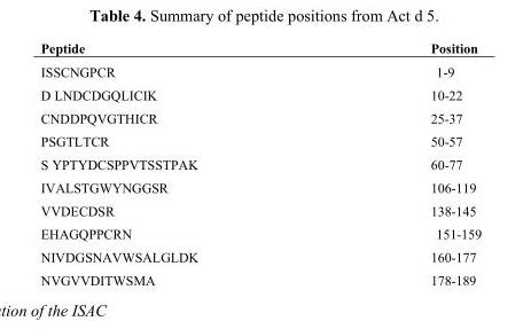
<table><thead><tr><td>Peptide</td><td>Position</td></tr></thead><tbody><tr><td>ISSCNGPCR</td><td>1-9</td></tr><tr><td>D LNDCDGQLICIK</td><td>10-22</td></tr><tr><td>CNDDPQVGTHICR</td><td>25-37</td></tr><tr><td>PSGTLTCR</td><td>50-57</td></tr><tr><td>S YPTYDCSPPVTSSTPAK</td><td>60-77</td></tr><tr><td>IVALSTGWYNGGSR</td><td>106-119</td></tr><tr><td>VVDECDSR</td><td>138-145</td></tr><tr><td>EHAGQPPCRN</td><td>151-159</td></tr><tr><td>NIVDGSNAVWSALGLDK</td><td>160-177</td></tr><tr><td>NVGVVDITWSMA</td><td>178-189</td></tr></tbody></table>